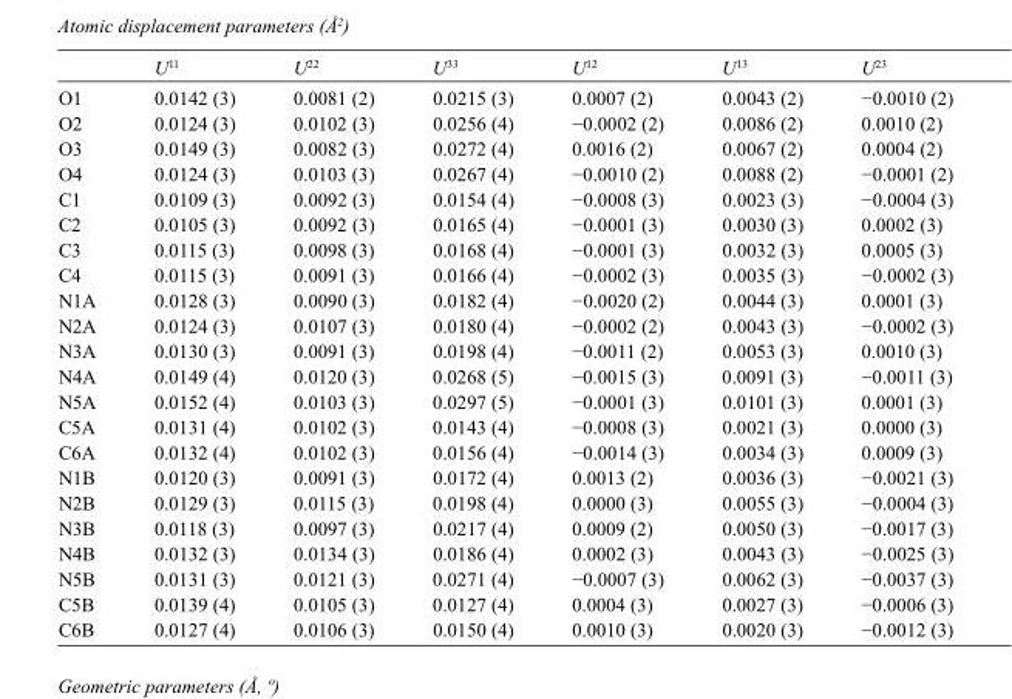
<table><thead><tr><td></td><td>U<sup>11</sup></td><td>U<sup>22</sup></td><td>U<sup>33</sup></td><td>U<sup>12</sup></td><td>U<sup>13</sup></td><td>U<sup>23</sup></td></tr></thead><tbody><tr><td>O1</td><td>0.0142 (3)</td><td>0.0081 (2)</td><td>0.0215 (3)</td><td>0.0007 (2)</td><td>0.0043 (2)</td><td>−0.0010 (2)</td></tr><tr><td>O2</td><td>0.0124 (3)</td><td>0.0102 (3)</td><td>0.0256 (4)</td><td>−0.0002 (2)</td><td>0.0086 (2)</td><td>0.0010 (2)</td></tr><tr><td>O3</td><td>0.0149 (3)</td><td>0.0082 (3)</td><td>0.0272 (4)</td><td>0.0016 (2)</td><td>0.0067 (2)</td><td>0.0004 (2)</td></tr><tr><td>O4</td><td>0.0124 (3)</td><td>0.0103 (3)</td><td>0.0267 (4)</td><td>−0.0010 (2)</td><td>0.0088 (2)</td><td>−0.0001 (2)</td></tr><tr><td>C1</td><td>0.0109 (3)</td><td>0.0092 (3)</td><td>0.0154 (4)</td><td>−0.0008 (3)</td><td>0.0023 (3)</td><td>−0.0004 (3)</td></tr><tr><td>C2</td><td>0.0105 (3)</td><td>0.0092 (3)</td><td>0.0165 (4)</td><td>−0.0001 (3)</td><td>0.0030 (3)</td><td>0.0002 (3)</td></tr><tr><td>C3</td><td>0.0115 (3)</td><td>0.0098 (3)</td><td>0.0168 (4)</td><td>−0.0001 (3)</td><td>0.0032 (3)</td><td>0.0005 (3)</td></tr><tr><td>C4</td><td>0.0115 (3)</td><td>0.0091 (3)</td><td>0.0166 (4)</td><td>−0.0002 (3)</td><td>0.0035 (3)</td><td>−0.0002 (3)</td></tr><tr><td>N1A</td><td>0.0128 (3)</td><td>0.0090 (3)</td><td>0.0182 (4)</td><td>−0.0020 (2)</td><td>0.0044 (3)</td><td>0.0001 (3)</td></tr><tr><td>N2A</td><td>0.0124 (3)</td><td>0.0107 (3)</td><td>0.0180 (4)</td><td>−0.0002 (2)</td><td>0.0043 (3)</td><td>−0.0002 (3)</td></tr><tr><td>N3A</td><td>0.0130 (3)</td><td>0.0091 (3)</td><td>0.0198 (4)</td><td>−0.0011 (2)</td><td>0.0053 (3)</td><td>0.0010 (3)</td></tr><tr><td>N4A</td><td>0.0149 (4)</td><td>0.0120 (3)</td><td>0.0268 (5)</td><td>−0.0015 (3)</td><td>0.0091 (3)</td><td>−0.0011 (3)</td></tr><tr><td>N5A</td><td>0.0152 (4)</td><td>0.0103 (3)</td><td>0.0297 (5)</td><td>−0.0001 (3)</td><td>0.0101 (3)</td><td>0.0001 (3)</td></tr><tr><td>C5A</td><td>0.0131 (4)</td><td>0.0102 (3)</td><td>0.0143 (4)</td><td>−0.0008 (3)</td><td>0.0021 (3)</td><td>0.0000 (3)</td></tr><tr><td>C6A</td><td>0.0132 (4)</td><td>0.0102 (3)</td><td>0.0156 (4)</td><td>−0.0014 (3)</td><td>0.0034 (3)</td><td>0.0009 (3)</td></tr><tr><td>N1B</td><td>0.0120 (3)</td><td>0.0091 (3)</td><td>0.0172 (4)</td><td>0.0013 (2)</td><td>0.0036 (3)</td><td>−0.0021 (3)</td></tr><tr><td>N2B</td><td>0.0129 (3)</td><td>0.0115 (3)</td><td>0.0198 (4)</td><td>0.0000 (3)</td><td>0.0055 (3)</td><td>−0.0004 (3)</td></tr><tr><td>N3B</td><td>0.0118 (3)</td><td>0.0097 (3)</td><td>0.0217 (4)</td><td>0.0009 (2)</td><td>0.0050 (3)</td><td>−0.0017 (3)</td></tr><tr><td>N4B</td><td>0.0132 (3)</td><td>0.0134 (3)</td><td>0.0186 (4)</td><td>0.0002 (3)</td><td>0.0043 (3)</td><td>−0.0025 (3)</td></tr><tr><td>N5B</td><td>0.0131 (3)</td><td>0.0121 (3)</td><td>0.0271 (4)</td><td>−0.0007 (3)</td><td>0.0062 (3)</td><td>−0.0037 (3)</td></tr><tr><td>C5B</td><td>0.0139 (4)</td><td>0.0105 (3)</td><td>0.0127 (4)</td><td>0.0004 (3)</td><td>0.0027 (3)</td><td>−0.0006 (3)</td></tr><tr><td>C6B</td><td>0.0127 (4)</td><td>0.0106 (3)</td><td>0.0150 (4)</td><td>0.0010 (3)</td><td>0.0020 (3)</td><td>−0.0012 (3)</td></tr></tbody></table>